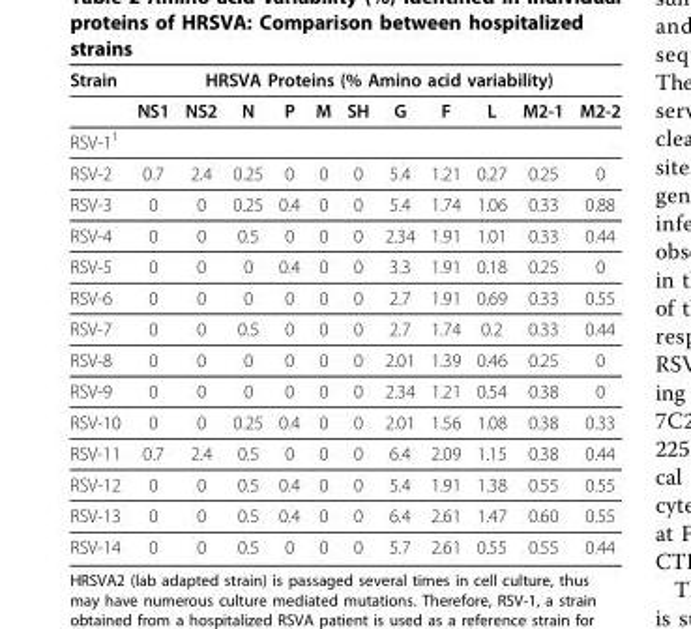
<table><thead><tr><td rowspan="2">Strain</td><td colspan="11">HRSVA Proteins (% Amino acid variability)</td></tr><tr><td>NS1</td><td>NS2</td><td>N</td><td>P</td><td>M</td><td>SH</td><td>G</td><td>F</td><td>L</td><td>M2-1</td><td>M2-2</td></tr></thead><tbody><tr><td colspan="12">RSV-1<sup>1</sup></td></tr><tr><td>RSV-2</td><td>0.7</td><td>2.4</td><td>0.25</td><td>0</td><td>0</td><td>0</td><td>5.4</td><td>1.21</td><td>0.27</td><td>0.25</td><td>0</td></tr><tr><td>RSV-3</td><td>0</td><td>0</td><td>0.25</td><td>0.4</td><td>0</td><td>0</td><td>5.4</td><td>1.74</td><td>1.06</td><td>0.33</td><td>0.88</td></tr><tr><td>RSV-4</td><td>0</td><td>0</td><td>0.5</td><td>0</td><td>0</td><td>0</td><td>2.34</td><td>1.91</td><td>1.01</td><td>0.33</td><td>0.44</td></tr><tr><td>RSV-5</td><td>0</td><td>0</td><td>0</td><td>0.4</td><td>0</td><td>0</td><td>3.3</td><td>1.91</td><td>0.18</td><td>0.25</td><td>0</td></tr><tr><td>RSV-6</td><td>0</td><td>0</td><td>0</td><td>0</td><td>0</td><td>0</td><td>2.7</td><td>1.91</td><td>0.69</td><td>0.33</td><td>0.55</td></tr><tr><td>RSV-7</td><td>0</td><td>0</td><td>0.5</td><td>0</td><td>0</td><td>0</td><td>2.7</td><td>1.74</td><td>0.2</td><td>0.33</td><td>0.44</td></tr><tr><td>RSV-8</td><td>0</td><td>0</td><td>0</td><td>0</td><td>0</td><td>0</td><td>2.01</td><td>1.39</td><td>0.46</td><td>0.25</td><td>0</td></tr><tr><td>RSV-9</td><td>0</td><td>0</td><td>0</td><td>0</td><td>0</td><td>0</td><td>2.34</td><td>1.21</td><td>0.54</td><td>0.38</td><td>0</td></tr><tr><td>RSV-10</td><td>0</td><td>0</td><td>0.25</td><td>0.4</td><td>0</td><td>0</td><td>2.01</td><td>1.56</td><td>1.08</td><td>0.38</td><td>0.33</td></tr><tr><td>RSV-11</td><td>0.7</td><td>2.4</td><td>0.5</td><td>0</td><td>0</td><td>0</td><td>6.4</td><td>2.09</td><td>1.15</td><td>0.38</td><td>0.44</td></tr><tr><td>RSV-12</td><td>0</td><td>0</td><td>0.5</td><td>0.4</td><td>0</td><td>0</td><td>5.4</td><td>1.91</td><td>1.38</td><td>0.55</td><td>0.55</td></tr><tr><td>RSV-13</td><td>0</td><td>0</td><td>0.5</td><td>0.4</td><td>0</td><td>0</td><td>6.4</td><td>2.61</td><td>1.47</td><td>0.60</td><td>0.55</td></tr><tr><td>RSV-14</td><td>0</td><td>0</td><td>0.5</td><td>0</td><td>0</td><td>0</td><td>5.7</td><td>2.61</td><td>0.55</td><td>0.55</td><td>0.44</td></tr></tbody></table>